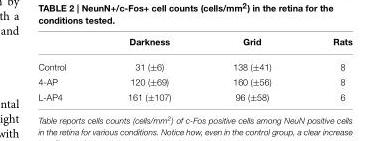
<table><thead><tr><td></td><td>Darkness</td><td>Grid</td><td>Rats</td></tr></thead><tbody><tr><td>Control</td><td>31 (±6)</td><td>138 (±41)</td><td>8</td></tr><tr><td>4-AP</td><td>120 (±69)</td><td>160 (±56)</td><td>8</td></tr><tr><td>L-AP4</td><td>161 (±107)</td><td>96 (±58)</td><td>6</td></tr></tbody></table>